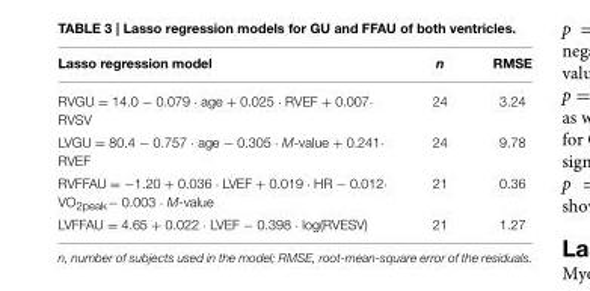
<table><thead><tr><td>Lasso regression model</td><td>n</td><td>RMSE</td></tr></thead><tbody><tr><td>RVGU = 14.0 − 0.079 · age + 0.025 · RVEF + 0.007· RVSV</td><td>24</td><td>3.24</td></tr><tr><td>LVGU = 80.4 − 0.757 · age − 0.305 · M-value + 0.241· RVEF</td><td>24</td><td>9.78</td></tr><tr><td>RVFFAU = −1.20 + 0.036 · LVEF + 0.019 · HR − 0.012· VO<sub>2peak</sub>− 0.003 · M-value</td><td>21</td><td>0.36</td></tr><tr><td>LVFFAU = 4.65 + 0.022 · LVEF − 0.398 · log(RVESV)</td><td>21</td><td>1.27</td></tr></tbody></table>